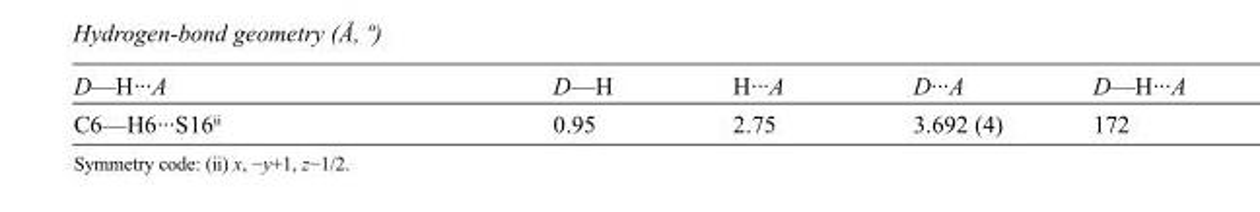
<table><tbody><tr><td>D—H···A</td><td>D—H</td><td>H···A</td><td>D···A</td><td>D—H···A</td></tr><tr><td>C6—H6···S16<sup>ii</sup></td><td>0.95</td><td>2.75</td><td>3.692 (4)</td><td>172</td></tr></tbody></table>